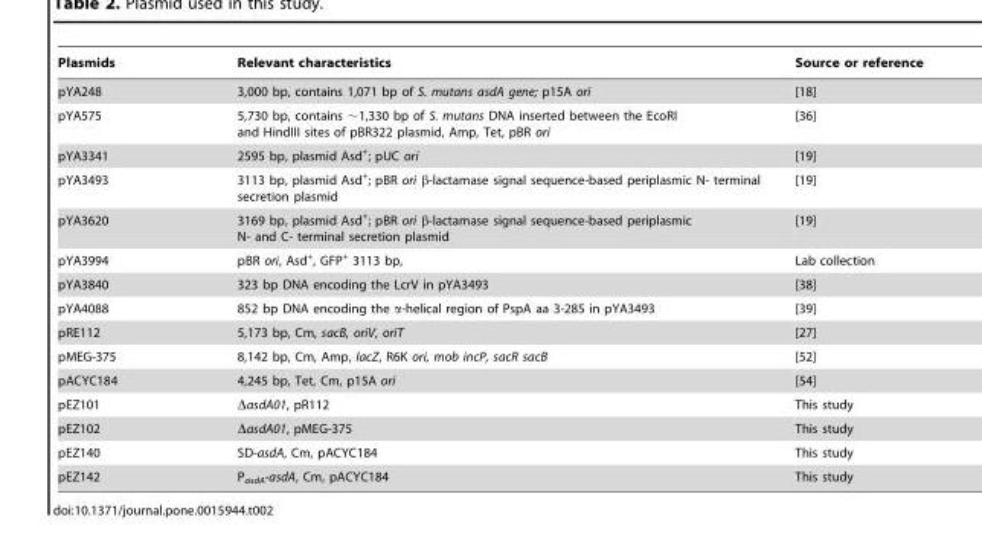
<table><thead><tr><td>Plasmids</td><td>Relevant characteristics</td><td>Source or reference</td></tr></thead><tbody><tr><td>pYA248</td><td>3,000 bp, contains 1,071 bp of S. mutans asdA gene; p15A ori</td><td>[18]</td></tr><tr><td>pYA575</td><td>5,730 bp, contains ∼1,330 bp of S. mutans DNA inserted between the EcoRI and HindIII sites of pBR322 plasmid, Amp, Tet, pBR ori</td><td>[36]</td></tr><tr><td>pYA3341</td><td>2595 bp, plasmid Asd<sup>+</sup>; pUC ori</td><td>[19]</td></tr><tr><td>pYA3493</td><td>3113 bp, plasmid Asd<sup>+</sup>; pBR ori β-lactamase signal sequence-based periplasmic N- terminal secretion plasmid</td><td>[19]</td></tr><tr><td>pYA3620</td><td>3169 bp, plasmid Asd<sup>+</sup>; pBR ori β-lactamase signal sequence-based periplasmic N- and C- terminal secretion plasmid</td><td>[19]</td></tr><tr><td>pYA3994</td><td>pBR ori, Asd<sup>+</sup>, GFP<sup>+</sup> 3113 bp,</td><td>Lab collection</td></tr><tr><td>pYA3840</td><td>323 bp DNA encoding the LcrV in pYA3493</td><td>[38]</td></tr><tr><td>pYA4088</td><td>852 bp DNA encoding the α-helical region of PspA aa 3-285 in pYA3493</td><td>[39]</td></tr><tr><td>pRE112</td><td>5,173 bp, Cm, sacB, oriV, oriT</td><td>[27]</td></tr><tr><td>pMEG-375</td><td>8,142 bp, Cm, Amp, lacZ, R6K ori, mob incP, sacR sacB</td><td>[52]</td></tr><tr><td>pACYC184</td><td>4,245 bp, Tet, Cm, p15A ori</td><td>[54]</td></tr><tr><td>pEZ101</td><td>ΔasdA01, pR112</td><td>This study</td></tr><tr><td>pEZ102</td><td>ΔasdA01, pMEG-375</td><td>This study</td></tr><tr><td>pEZ140</td><td>SD-asdA, Cm, pACYC184</td><td>This study</td></tr><tr><td>pEZ142</td><td>P<sub>asdA</sub>-asdA, Cm, pACYC184</td><td>This study</td></tr></tbody></table>